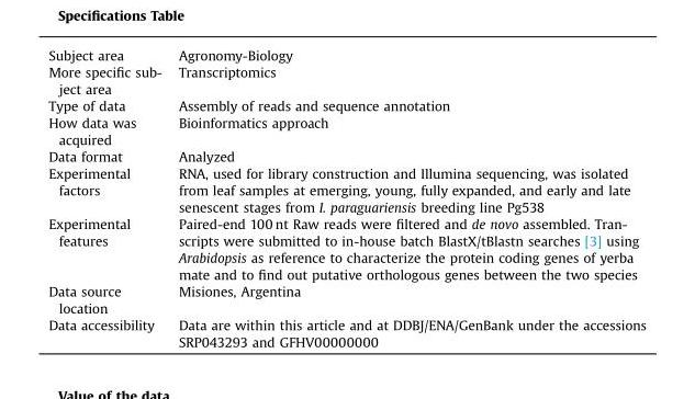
<table><tbody><tr><td>Subject area</td><td>Agronomy-Biology</td></tr><tr><td>More specific sub- ject area</td><td>Transcriptomics</td></tr><tr><td>Type of data</td><td>Assembly of reads and sequence annotation</td></tr><tr><td>How data was acquired</td><td>Bioinformatics approach</td></tr><tr><td>Data format</td><td>Analyzed</td></tr><tr><td>Experimental factors</td><td>RNA, used for library construction and Illumina sequencing, was isolated from leaf samples at emerging, young, fully expanded, and early and late senescent stages from I. paraguariensis breeding line Pg538</td></tr><tr><td>Experimental features</td><td>Paired-end 100 nt Raw reads were filtered and de novo assembled. Tran- scripts were submitted to in-house batch BlastX/tBlastn searches [3] using Arabidopsis as reference to characterize the protein coding genes of yerba mate and to find out putative orthologous genes between the two species</td></tr><tr><td>Data source location</td><td>Misiones, Argentina</td></tr><tr><td>Data accessibility</td><td>Data are within this article and at DDBJ/ENA/GenBank under the accessions SRP043293 and GFHV00000000</td></tr></tbody></table>